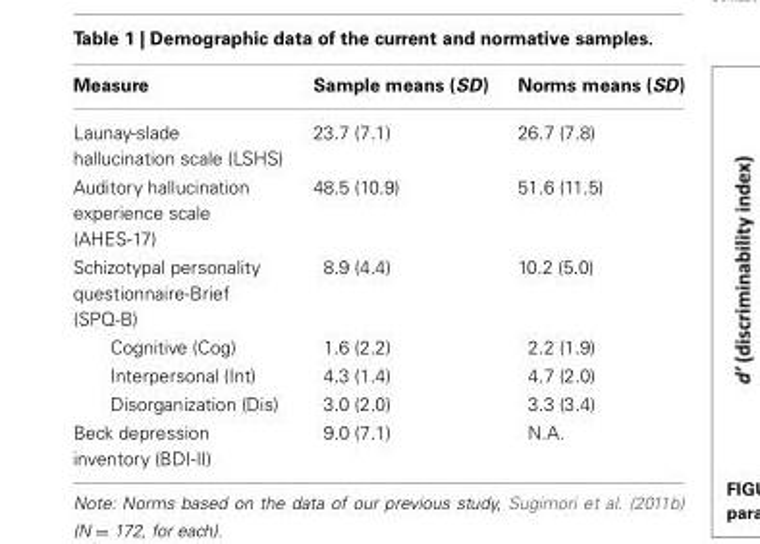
<table><thead><tr><td>Measure</td><td>Sample means (SD)</td><td>Norms means (SD)</td></tr></thead><tbody><tr><td>Launay-slade hallucination scale (LSHS)</td><td>23.7 (7.1)</td><td>26.7 (7.8)</td></tr><tr><td>Auditory hallucination experience scale (AHES-17)</td><td>48.5 (10.9)</td><td>51.6 (11.5)</td></tr><tr><td>Schizotypal personality questionnaire-Brief (SPQ-B)</td><td>8.9 (4.4)</td><td>10.2 (5.0)</td></tr><tr><td>Cognitive (Cog)</td><td>1.6 (2.2)</td><td>2.2 (1.9)</td></tr><tr><td>Interpersonal (Int)</td><td>4.3 (1.4)</td><td>4.7 (2.0)</td></tr><tr><td>Disorganization (Dis)</td><td>3.0 (2.0)</td><td>3.3 (3.4)</td></tr><tr><td>Beck depression inventory (BDI-II)</td><td>9.0 (7.1)</td><td>N.A.</td></tr></tbody></table>